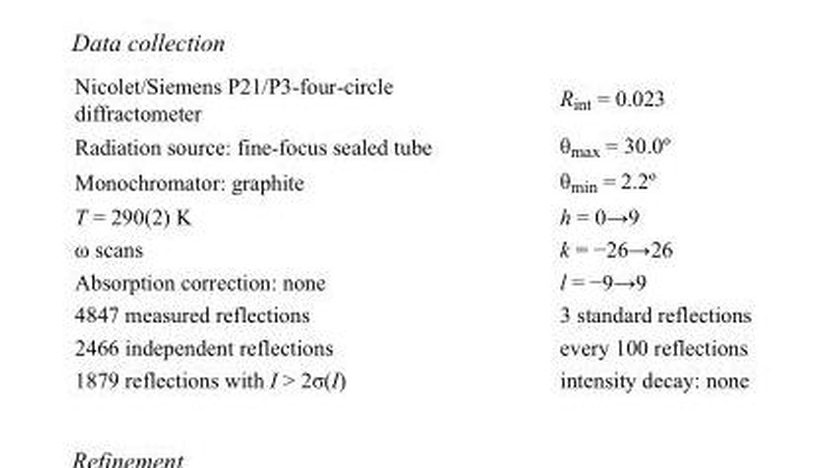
<table><tbody><tr><td>Nicolet/Siemens P21/P3-four-circle diffractometer</td><td>R<sub>int</sub> = 0.023</td></tr><tr><td>Radiation source: fine-focus sealed tube</td><td>θ<sub>max</sub> = 30.0º</td></tr><tr><td>Monochromator: graphite</td><td>θ<sub>min</sub> = 2.2º</td></tr><tr><td>T = 290(2) K</td><td>h = 0→9</td></tr><tr><td>ω scans</td><td>k = −26→26</td></tr><tr><td>Absorption correction: none</td><td>l = −9→9</td></tr><tr><td>4847 measured reflections</td><td>3 standard reflections</td></tr><tr><td>2466 independent reflections</td><td>every 100 reflections</td></tr><tr><td>1879 reflections with I &gt; 2σ(I)</td><td>intensity decay: none</td></tr></tbody></table>